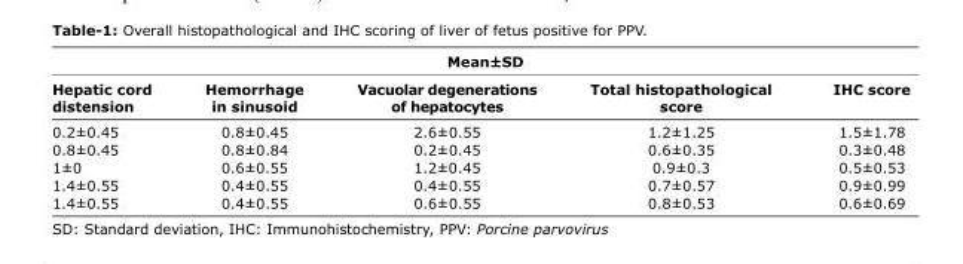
<table><thead><tr><td colspan="5">Mean±SD</td></tr><tr><td>Hepatic cord distension</td><td>Hemorrhage in sinusoid</td><td>Vacuolar degenerations of hepatocytes</td><td>Total histopathological score</td><td>IHC score</td></tr></thead><tbody><tr><td>0.2±0.45</td><td>0.8±0.45</td><td>2.6±0.55</td><td>1.2±1.25</td><td>1.5±1.78</td></tr><tr><td>0.8±0.45</td><td>0.8±0.84</td><td>0.2±0.45</td><td>0.6±0.35</td><td>0.3±0.48</td></tr><tr><td>1±0</td><td>0.6±0.55</td><td>1.2±0.45</td><td>0.9±0.3</td><td>0.5±0.53</td></tr><tr><td>1.4±0.55</td><td>0.4±0.55</td><td>0.4±0.55</td><td>0.7±0.57</td><td>0.9±0.99</td></tr><tr><td>1.4±0.55</td><td>0.4±0.55</td><td>0.6±0.55</td><td>0.8±0.53</td><td>0.6±0.69</td></tr></tbody></table>